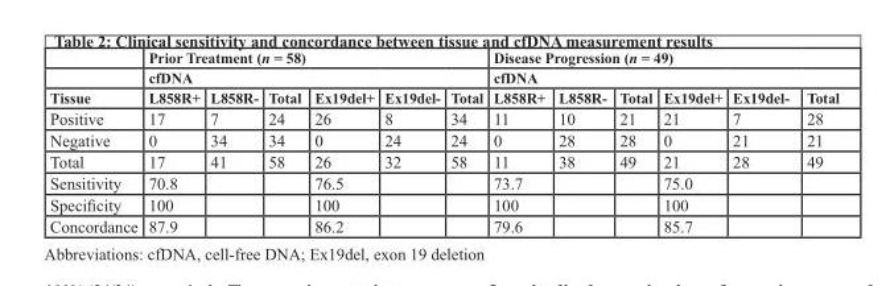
<table><thead><tr><td rowspan="3">Tissue</td><td rowspan="2" colspan="6">Prior Treatment (n = 58) cfDNA</td><td rowspan="2" colspan="6">Disease Progression (n = 49) cfDNA</td></tr><tr></tr><tr><td>L858R+</td><td>L858R-</td><td>Total</td><td>Ex19del+</td><td>Ex19del-</td><td>Total</td><td>L858R+</td><td>L858R-</td><td>Total</td><td>Ex19del+</td><td>Ex19del-</td><td>Total</td></tr></thead><tbody><tr><td>Positive</td><td>17</td><td>7</td><td>24</td><td>26</td><td>8</td><td>34</td><td>11</td><td>10</td><td>21</td><td>21</td><td>7</td><td>28</td></tr><tr><td>Negative</td><td>0</td><td>34</td><td>34</td><td>0</td><td>24</td><td>24</td><td>0</td><td>28</td><td>28</td><td>0</td><td>21</td><td>21</td></tr><tr><td>Total</td><td>17</td><td>41</td><td>58</td><td>26</td><td>32</td><td>58</td><td>11</td><td>38</td><td>49</td><td>21</td><td>28</td><td>49</td></tr><tr><td>Sensitivity</td><td>70.8</td><td></td><td></td><td>76.5</td><td></td><td></td><td>73.7</td><td></td><td></td><td>75.0</td><td></td><td></td></tr><tr><td>Specificity</td><td>100</td><td></td><td></td><td>100</td><td></td><td></td><td>100</td><td></td><td></td><td>100</td><td></td><td></td></tr><tr><td>Concordance</td><td>87.9</td><td></td><td></td><td>86.2</td><td></td><td></td><td>79.6</td><td></td><td></td><td>85.7</td><td></td><td></td></tr></tbody></table>